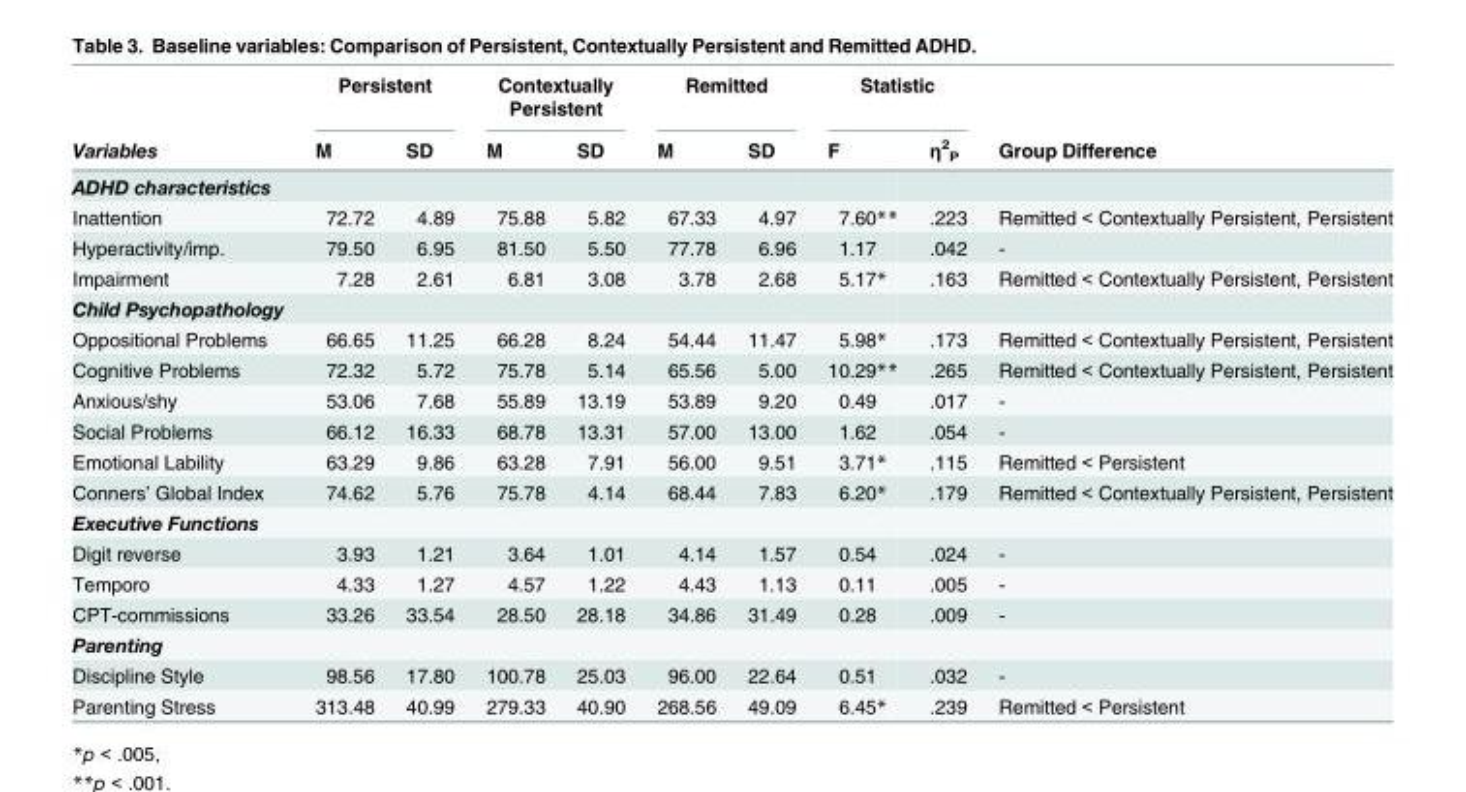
<table><thead><tr><td rowspan="2">Variables</td><td colspan="2">Persistent</td><td colspan="2">Contextually Persistent</td><td colspan="2">Remitted</td><td colspan="2">Statistic</td><td rowspan="2">Group Difference</td></tr><tr><td>M</td><td>SD</td><td>M</td><td>SD</td><td>M</td><td>SD</td><td>F</td><td>η<sup>2</sup> <sub>P</sub></td></tr></thead><tbody><tr><td colspan="10">ADHD characteristics</td></tr><tr><td>Inattention</td><td>72.72</td><td>4.89</td><td>75.88</td><td>5.82</td><td>67.33</td><td>4.97</td><td>7.60**</td><td>.223</td><td>Remitted &lt; Contextually Persistent, Persistent</td></tr><tr><td>Hyperactivity/imp.</td><td>79.50</td><td>6.95</td><td>81.50</td><td>5.50</td><td>77.78</td><td>6.96</td><td>1.17</td><td>.042</td><td>-</td></tr><tr><td>Impairment</td><td>7.28</td><td>2.61</td><td>6.81</td><td>3.08</td><td>3.78</td><td>2.68</td><td>5.17*</td><td>.163</td><td>Remitted &lt; Contextually Persistent, Persistent</td></tr><tr><td colspan="10">Child Psychopathology</td></tr><tr><td>Oppositional Problems</td><td>66.65</td><td>11.25</td><td>66.28</td><td>8.24</td><td>54.44</td><td>11.47</td><td>5.98*</td><td>.173</td><td>Remitted &lt; Contextually Persistent, Persistent</td></tr><tr><td>Cognitive Problems</td><td>72.32</td><td>5.72</td><td>75.78</td><td>5.14</td><td>65.56</td><td>5.00</td><td>10.29**</td><td>.265</td><td>Remitted &lt; Contextually Persistent, Persistent</td></tr><tr><td>Anxious/shy</td><td>53.06</td><td>7.68</td><td>55.89</td><td>13.19</td><td>53.89</td><td>9.20</td><td>0.49</td><td>.017</td><td>-</td></tr><tr><td>Social Problems</td><td>66.12</td><td>16.33</td><td>68.78</td><td>13.31</td><td>57.00</td><td>13.00</td><td>1.62</td><td>.054</td><td>-</td></tr><tr><td>Emotional Lability</td><td>63.29</td><td>9.86</td><td>63.28</td><td>7.91</td><td>56.00</td><td>9.51</td><td>3.71*</td><td>.115</td><td>Remitted &lt; Persistent</td></tr><tr><td>Conners’ Global Index</td><td>74.62</td><td>5.76</td><td>75.78</td><td>4.14</td><td>68.44</td><td>7.83</td><td>6.20*</td><td>.179</td><td>Remitted &lt; Contextually Persistent, Persistent</td></tr><tr><td colspan="10">Executive Functions</td></tr><tr><td>Digit reverse</td><td>3.93</td><td>1.21</td><td>3.64</td><td>1.01</td><td>4.14</td><td>1.57</td><td>0.54</td><td>.024</td><td>-</td></tr><tr><td>Temporo</td><td>4.33</td><td>1.27</td><td>4.57</td><td>1.22</td><td>4.43</td><td>1.13</td><td>0.11</td><td>.005</td><td>-</td></tr><tr><td>CPT-commissions</td><td>33.26</td><td>33.54</td><td>28.50</td><td>28.18</td><td>34.86</td><td>31.49</td><td>0.28</td><td>.009</td><td>-</td></tr><tr><td colspan="10">Parenting</td></tr><tr><td>Discipline Style</td><td>98.56</td><td>17.80</td><td>100.78</td><td>25.03</td><td>96.00</td><td>22.64</td><td>0.51</td><td>.032</td><td>-</td></tr><tr><td>Parenting Stress</td><td>313.48</td><td>40.99</td><td>279.33</td><td>40.90</td><td>268.56</td><td>49.09</td><td>6.45*</td><td>.239</td><td>Remitted &lt; Persistent</td></tr></tbody></table>